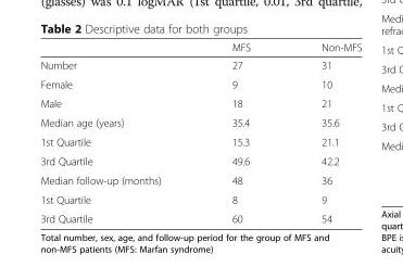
<table><thead><tr><td></td><td>MFS</td><td>Non-MFS</td></tr></thead><tbody><tr><td>Number</td><td>27</td><td>31</td></tr><tr><td>Female</td><td>9</td><td>10</td></tr><tr><td>Male</td><td>18</td><td>21</td></tr><tr><td>Median age (years)</td><td>35.4</td><td>35.6</td></tr><tr><td>1st Quartile</td><td>15.3</td><td>21.1</td></tr><tr><td>3rd Quartile</td><td>49.6</td><td>42.2</td></tr><tr><td>Median follow-up (months)</td><td>48</td><td>36</td></tr><tr><td>1st Quartile</td><td>8</td><td>9</td></tr><tr><td>3rd Quartile</td><td>60</td><td>54</td></tr></tbody></table>